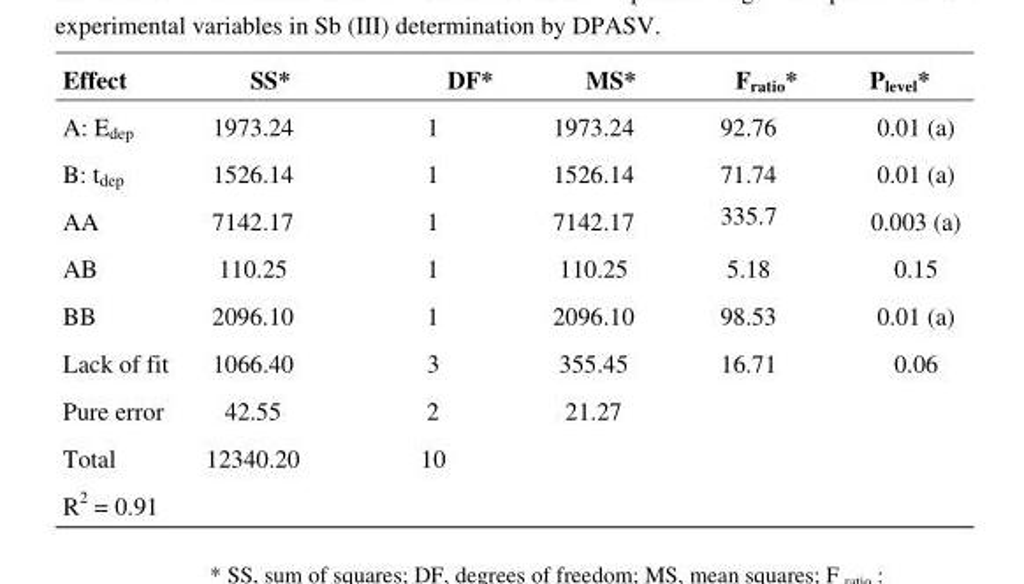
<table><thead><tr><td>Effect</td><td>SS*</td><td>DF*</td><td>MS*</td><td>F<sub>ratio</sub>*</td><td>P<sub>level</sub>*</td></tr></thead><tbody><tr><td>A: E<sub>dep</sub></td><td>1973.24</td><td>1</td><td>1973.24</td><td>92.76</td><td>0.01 (a)</td></tr><tr><td>B: t<sub>dep</sub></td><td>1526.14</td><td>1</td><td>1526.14</td><td>71.74</td><td>0.01 (a)</td></tr><tr><td>AA</td><td>7142.17</td><td>1</td><td>7142.17</td><td>335.7</td><td>0.003 (a)</td></tr><tr><td>AB</td><td>110.25</td><td>1</td><td>110.25</td><td>5.18</td><td>0.15</td></tr><tr><td>BB</td><td>2096.10</td><td>1</td><td>2096.10</td><td>98.53</td><td>0.01 (a)</td></tr><tr><td>Lack of fit</td><td>1066.40</td><td>3</td><td>355.45</td><td>16.71</td><td>0.06</td></tr><tr><td>Pure error</td><td>42.55</td><td>2</td><td>21.27</td><td></td><td></td></tr><tr><td>Total</td><td>12340.20</td><td>10</td><td></td><td></td><td></td></tr><tr><td>R<sup>2</sup> = 0.91</td><td></td><td></td><td></td><td></td><td></td></tr></tbody></table>